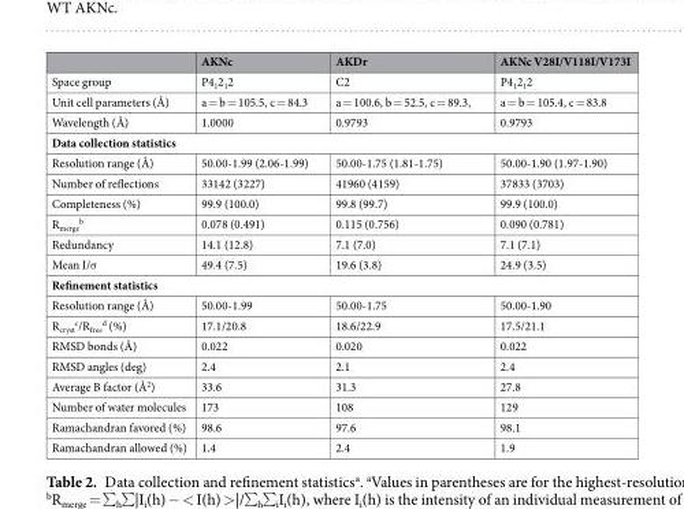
<table><thead><tr><td></td><td>AKNc</td><td>AKDr</td><td>AKNc V28I/V118I/V173I</td></tr></thead><tbody><tr><td>Space group</td><td>P4<sub>1</sub>2<sub>1</sub>2</td><td>C2</td><td>P4<sub>1</sub>2<sub>1</sub>2</td></tr><tr><td>Unit cell parameters (Å)</td><td>a = b = 105.5, c = 84.3</td><td>a = 100.6, b = 52.5, c = 89.3,</td><td>a = b = 105.4, c = 83.8</td></tr><tr><td>Wavelength (Å)</td><td>1.0000</td><td>0.9793</td><td>0.9793</td></tr><tr><td colspan="4">Data collection statistics</td></tr><tr><td>Resolution range (Å)</td><td>50.00-1.99 (2.06-1.99)</td><td>50.00-1.75 (1.81-1.75)</td><td>50.00-1.90 (1.97-1.90)</td></tr><tr><td>Number of reflections</td><td>33142 (3227)</td><td>41960 (4159)</td><td>37833 (3703)</td></tr><tr><td>Completeness (%)</td><td>99.9 (100.0)</td><td>99.8 (99.7)</td><td>99.9 (100.0)</td></tr><tr><td>R<sub>merge</sub> <sup>b</sup></td><td>0.078 (0.491)</td><td>0.115 (0.756)</td><td>0.090 (0.781)</td></tr><tr><td>Redundancy</td><td>14.1 (12.8)</td><td>7.1 (7.0)</td><td>7.1 (7.1)</td></tr><tr><td>Mean I/σ</td><td>49.4 (7.5)</td><td>19.6 (3.8)</td><td>24.9 (3.5)</td></tr><tr><td colspan="4">Refinement statistics</td></tr><tr><td>Resolution range (Å)</td><td>50.00-1.99</td><td>50.00-1.75</td><td>50.00-1.90</td></tr><tr><td>R<sub>cryst</sub> <sup>c</sup>/R<sub>free</sub> <sup>d</sup> (%)</td><td>17.1/20.8</td><td>18.6/22.9</td><td>17.5/21.1</td></tr><tr><td>RMSD bonds (Å)</td><td>0.022</td><td>0.020</td><td>0.022</td></tr><tr><td>RMSD angles (deg)</td><td>2.4</td><td>2.1</td><td>2.4</td></tr><tr><td>Average B factor (Å<sup>2</sup>)</td><td>33.6</td><td>31.3</td><td>27.8</td></tr><tr><td>Number of water molecules</td><td>173</td><td>108</td><td>129</td></tr><tr><td>Ramachandran favored (%)</td><td>98.6</td><td>97.6</td><td>98.1</td></tr><tr><td>Ramachandran allowed (%)</td><td>1.4</td><td>2.4</td><td>1.9</td></tr></tbody></table>